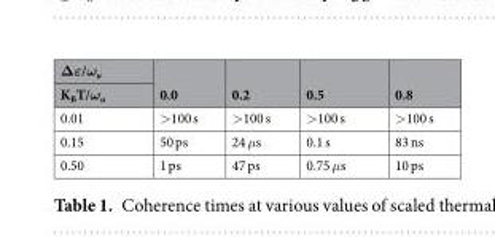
<table><thead><tr><td rowspan="2">Δε/ω<sub>u</sub> K<sub>B</sub>T/ω<sub>u</sub></td><td rowspan="2">0.0</td><td rowspan="2">0.2</td><td rowspan="2">0.5</td><td rowspan="2">0.8</td></tr><tr></tr></thead><tbody><tr><td>0.01</td><td>&gt;100 s</td><td>&gt;100 s</td><td>&gt;100 s</td><td>&gt;100 s</td></tr><tr><td>0.15</td><td>50 ps</td><td>24 μs</td><td>0.1 s</td><td>83 ns</td></tr><tr><td>0.50</td><td>1 ps</td><td>47 ps</td><td>0.75 μs</td><td>10 ps</td></tr></tbody></table>